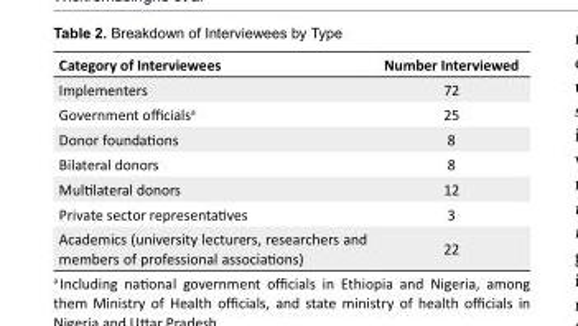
<table><tbody><tr><td>Category of Interviewees</td><td>Number Interviewed</td></tr><tr><td>Implementers</td><td>72</td></tr><tr><td>Government officials<sup>a</sup></td><td>25</td></tr><tr><td>Donor foundations</td><td>8</td></tr><tr><td>Bilateral donors</td><td>8</td></tr><tr><td>Multilateral donors</td><td>12</td></tr><tr><td>Private sector representatives</td><td>3</td></tr><tr><td>Academics (university lecturers, researchers and members of professional associations)</td><td>22</td></tr></tbody></table>